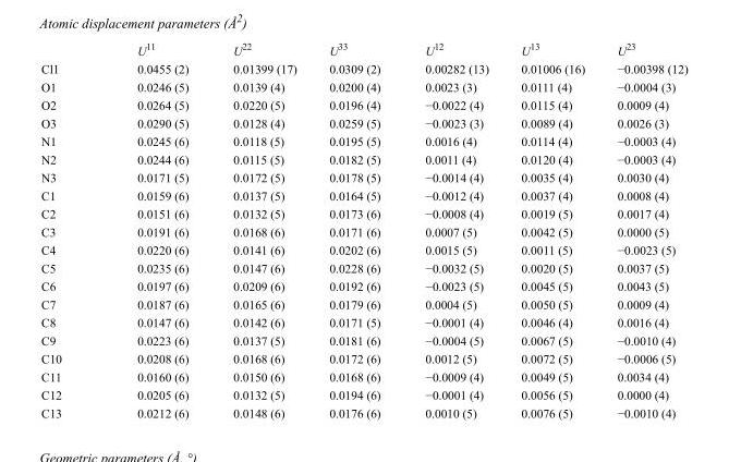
<table><thead><tr><td></td><td>U<sup>11</sup></td><td>U<sup>22</sup></td><td>U<sup>33</sup></td><td>U<sup>12</sup></td><td>U<sup>13</sup></td><td>U<sup>23</sup></td></tr></thead><tbody><tr><td>Cl1</td><td>0.0455 (2)</td><td>0.01399 (17)</td><td>0.0309 (2)</td><td>0.00282 (13)</td><td>0.01006 (16)</td><td>−0.00398 (12)</td></tr><tr><td>O1</td><td>0.0246 (5)</td><td>0.0139 (4)</td><td>0.0200 (4)</td><td>0.0023 (3)</td><td>0.0111 (4)</td><td>−0.0004 (3)</td></tr><tr><td>O2</td><td>0.0264 (5)</td><td>0.0220 (5)</td><td>0.0196 (4)</td><td>−0.0022 (4)</td><td>0.0115 (4)</td><td>0.0009 (4)</td></tr><tr><td>O3</td><td>0.0290 (5)</td><td>0.0128 (4)</td><td>0.0259 (5)</td><td>−0.0023 (3)</td><td>0.0089 (4)</td><td>0.0026 (3)</td></tr><tr><td>N1</td><td>0.0245 (6)</td><td>0.0118 (5)</td><td>0.0195 (5)</td><td>0.0016 (4)</td><td>0.0114 (4)</td><td>−0.0003 (4)</td></tr><tr><td>N2</td><td>0.0244 (6)</td><td>0.0115 (5)</td><td>0.0182 (5)</td><td>0.0011 (4)</td><td>0.0120 (4)</td><td>−0.0003 (4)</td></tr><tr><td>N3</td><td>0.0171 (5)</td><td>0.0172 (5)</td><td>0.0178 (5)</td><td>−0.0014 (4)</td><td>0.0035 (4)</td><td>0.0030 (4)</td></tr><tr><td>C1</td><td>0.0159 (6)</td><td>0.0137 (5)</td><td>0.0164 (5)</td><td>−0.0012 (4)</td><td>0.0037 (4)</td><td>0.0008 (4)</td></tr><tr><td>C2</td><td>0.0151 (6)</td><td>0.0132 (5)</td><td>0.0173 (6)</td><td>−0.0008 (4)</td><td>0.0019 (5)</td><td>0.0017 (4)</td></tr><tr><td>C3</td><td>0.0191 (6)</td><td>0.0168 (6)</td><td>0.0171 (6)</td><td>0.0007 (5)</td><td>0.0042 (5)</td><td>0.0000 (5)</td></tr><tr><td>C4</td><td>0.0220 (6)</td><td>0.0141 (6)</td><td>0.0202 (6)</td><td>0.0015 (5)</td><td>0.0011 (5)</td><td>−0.0023 (5)</td></tr><tr><td>C5</td><td>0.0235 (6)</td><td>0.0147 (6)</td><td>0.0228 (6)</td><td>−0.0032 (5)</td><td>0.0020 (5)</td><td>0.0037 (5)</td></tr><tr><td>C6</td><td>0.0197 (6)</td><td>0.0209 (6)</td><td>0.0192 (6)</td><td>−0.0023 (5)</td><td>0.0045 (5)</td><td>0.0043 (5)</td></tr><tr><td>C7</td><td>0.0187 (6)</td><td>0.0165 (6)</td><td>0.0179 (6)</td><td>0.0004 (5)</td><td>0.0050 (5)</td><td>0.0009 (4)</td></tr><tr><td>C8</td><td>0.0147 (6)</td><td>0.0142 (6)</td><td>0.0171 (5)</td><td>−0.0001 (4)</td><td>0.0046 (4)</td><td>0.0016 (4)</td></tr><tr><td>C9</td><td>0.0223 (6)</td><td>0.0137 (5)</td><td>0.0181 (6)</td><td>−0.0004 (5)</td><td>0.0067 (5)</td><td>−0.0010 (4)</td></tr><tr><td>C10</td><td>0.0208 (6)</td><td>0.0168 (6)</td><td>0.0172 (6)</td><td>0.0012 (5)</td><td>0.0072 (5)</td><td>−0.0006 (5)</td></tr><tr><td>C11</td><td>0.0160 (6)</td><td>0.0150 (6)</td><td>0.0168 (6)</td><td>−0.0009 (4)</td><td>0.0049 (5)</td><td>0.0034 (4)</td></tr><tr><td>C12</td><td>0.0205 (6)</td><td>0.0132 (5)</td><td>0.0194 (6)</td><td>−0.0001 (4)</td><td>0.0056 (5)</td><td>0.0000 (4)</td></tr><tr><td>C13</td><td>0.0212 (6)</td><td>0.0148 (6)</td><td>0.0176 (6)</td><td>0.0010 (5)</td><td>0.0076 (5)</td><td>−0.0010 (4)</td></tr></tbody></table>